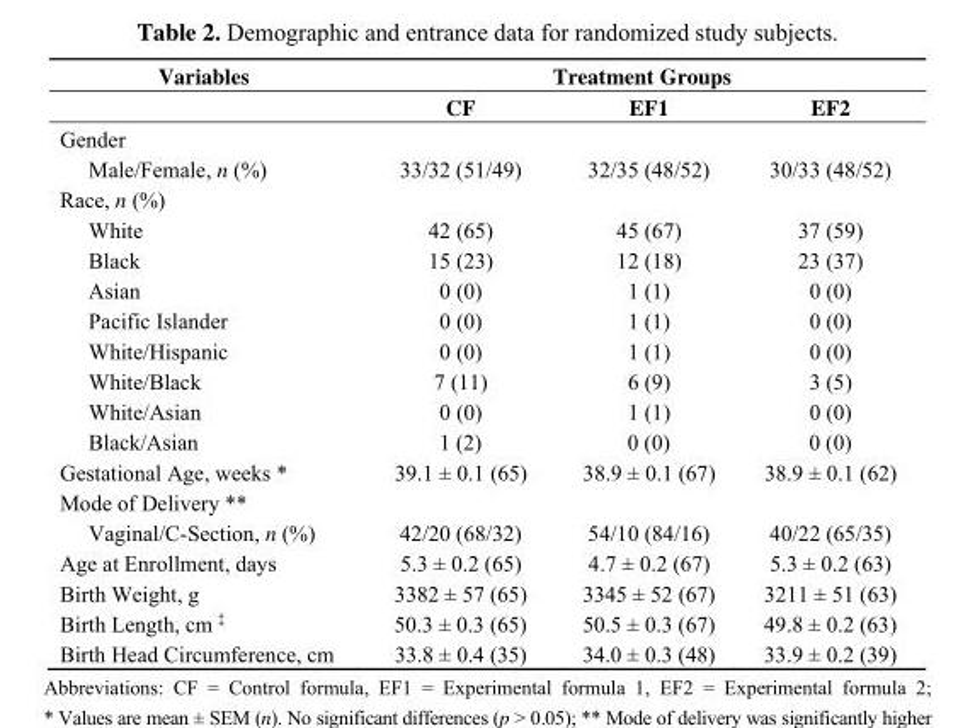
<table><thead><tr><td rowspan="2">Variables</td><td colspan="3">Treatment Groups</td></tr><tr><td>CF</td><td>EF1</td><td>EF2</td></tr></thead><tbody><tr><td colspan="4">Gender</td></tr><tr><td>Male/Female, n (%)</td><td>33/32 (51/49)</td><td>32/35 (48/52)</td><td>30/33 (48/52)</td></tr><tr><td colspan="4">Race, n (%)</td></tr><tr><td>White</td><td>42 (65)</td><td>45 (67)</td><td>37 (59)</td></tr><tr><td>Black</td><td>15 (23)</td><td>12 (18)</td><td>23 (37)</td></tr><tr><td>Asian</td><td>0 (0)</td><td>1 (1)</td><td>0 (0)</td></tr><tr><td>Pacific Islander</td><td>0 (0)</td><td>1 (1)</td><td>0 (0)</td></tr><tr><td>White/Hispanic</td><td>0 (0)</td><td>1 (1)</td><td>0 (0)</td></tr><tr><td>White/Black</td><td>7 (11)</td><td>6 (9)</td><td>3 (5)</td></tr><tr><td>White/Asian</td><td>0 (0)</td><td>1 (1)</td><td>0 (0)</td></tr><tr><td>Black/Asian</td><td>1 (2)</td><td>0 (0)</td><td>0 (0)</td></tr><tr><td>Gestational Age, weeks *</td><td>39.1 ± 0.1 (65)</td><td>38.9 ± 0.1 (67)</td><td>38.9 ± 0.1 (62)</td></tr><tr><td colspan="4">Mode of Delivery **</td></tr><tr><td>Vaginal/C-Section, n (%)</td><td>42/20 (68/32)</td><td>54/10 (84/16)</td><td>40/22 (65/35)</td></tr><tr><td>Age at Enrollment, days</td><td>5.3 ± 0.2 (65)</td><td>4.7 ± 0.2 (67)</td><td>5.3 ± 0.2 (63)</td></tr><tr><td>Birth Weight, g</td><td>3382 ± 57 (65)</td><td>3345 ± 52 (67)</td><td>3211 ± 51 (63)</td></tr><tr><td>Birth Length, cm <sup>‡</sup></td><td>50.3 ± 0.3 (65)</td><td>50.5 ± 0.3 (67)</td><td>49.8 ± 0.2 (63)</td></tr><tr><td>Birth Head Circumference, cm</td><td>33.8 ± 0.4 (35)</td><td>34.0 ± 0.3 (48)</td><td>33.9 ± 0.2 (39)</td></tr></tbody></table>